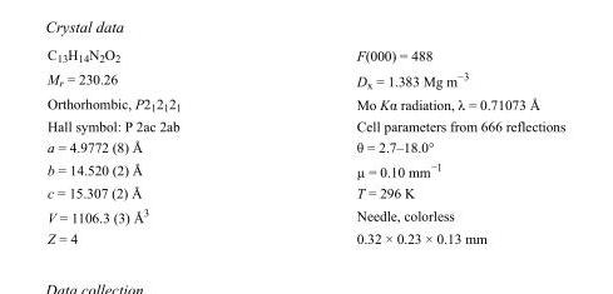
<table><tbody><tr><td>C<sub>13</sub>H<sub>14</sub>N<sub>2</sub>O<sub>2</sub></td><td>F(000) = 488</td></tr><tr><td>M<sub>r</sub> = 230.26</td><td>D<sub>x</sub> = 1.383 Mg m<sup>−3</sup></td></tr><tr><td>Orthorhombic, P2<sub>1</sub>2<sub>1</sub>2<sub>1</sub></td><td>Mo Kα radiation, λ = 0.71073 Å</td></tr><tr><td>Hall symbol: P 2ac 2ab</td><td>Cell parameters from 666 reflections</td></tr><tr><td>a = 4.9772 (8) Å</td><td>θ = 2.7–18.0°</td></tr><tr><td>b = 14.520 (2) Å</td><td>µ = 0.10 mm<sup>−1</sup></td></tr><tr><td>c = 15.307 (2) Å</td><td>T = 296 K</td></tr><tr><td>V = 1106.3 (3) Å<sup>3</sup></td><td>Needle, colorless</td></tr><tr><td>Z = 4</td><td>0.32 × 0.23 × 0.13 mm</td></tr></tbody></table>